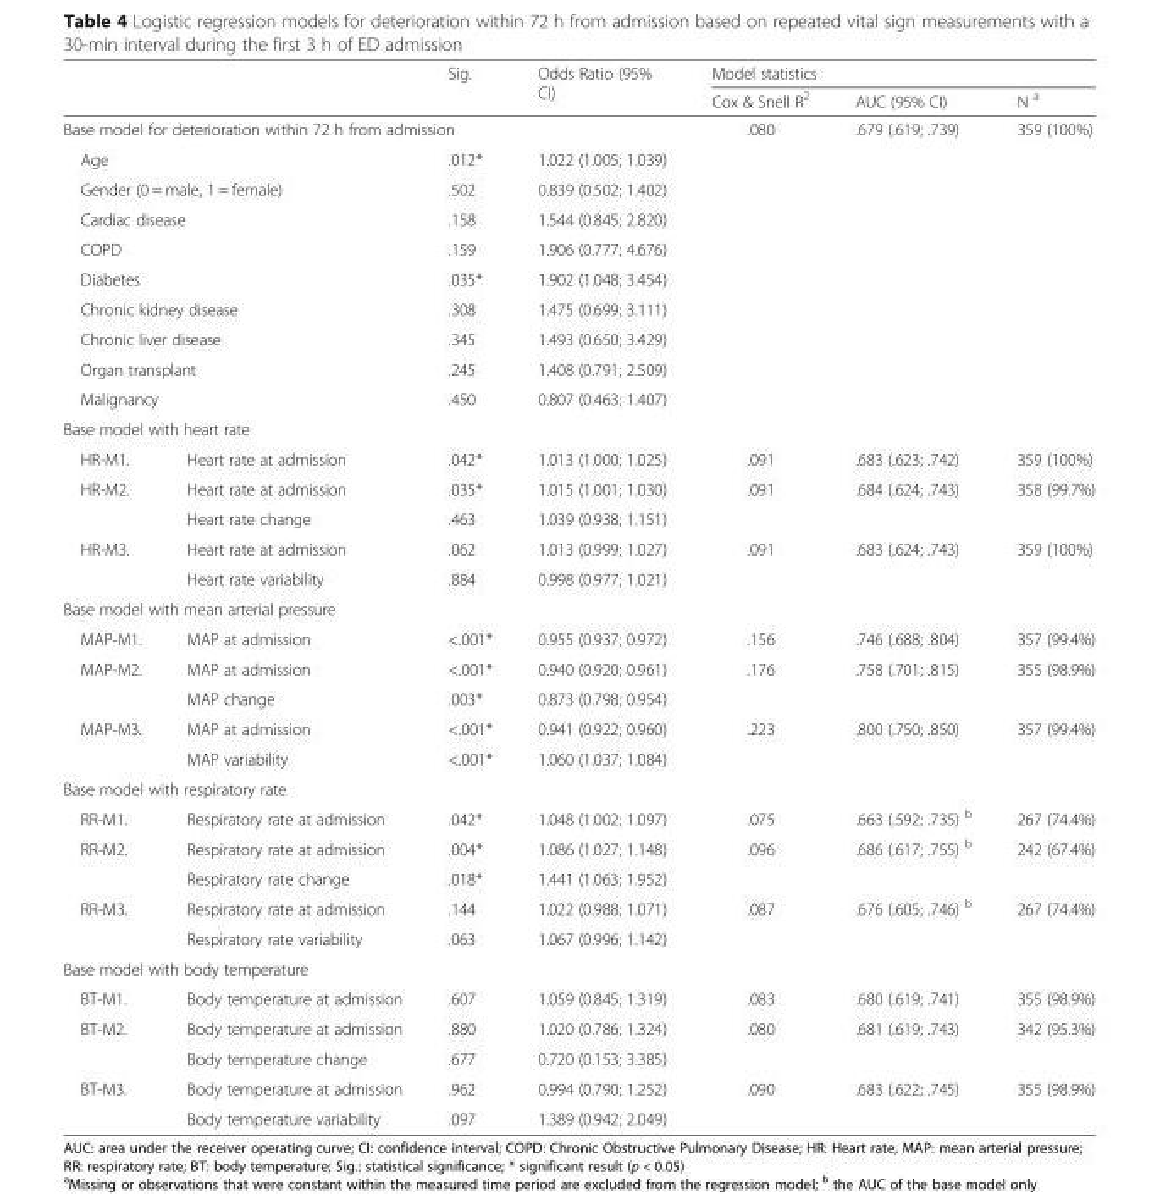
<table><thead><tr><td rowspan="2"></td><td rowspan="2"></td><td rowspan="2">Sig.</td><td rowspan="2">Odds Ratio (95% CI)</td><td colspan="3">Model statistics</td></tr><tr><td>Cox &amp; Snell R<sup>2</sup></td><td>AUC (95% CI)</td><td>N <sup>a</sup></td></tr></thead><tbody><tr><td colspan="4">Base model for deterioration within 72 h from admission</td><td>.080</td><td>.679 (.619; .739)</td><td>359 (100%)</td></tr><tr><td colspan="2">Age</td><td>.012*</td><td>1.022 (1.005; 1.039)</td><td></td><td></td><td></td></tr><tr><td colspan="2">Gender (0 = male, 1 = female)</td><td>.502</td><td>0.839 (0.502; 1.402)</td><td></td><td></td><td></td></tr><tr><td colspan="2">Cardiac disease</td><td>.158</td><td>1.544 (0.845; 2.820)</td><td></td><td></td><td></td></tr><tr><td colspan="2">COPD</td><td>.159</td><td>1.906 (0.777; 4.676)</td><td></td><td></td><td></td></tr><tr><td colspan="2">Diabetes</td><td>.035*</td><td>1.902 (1.048; 3.454)</td><td></td><td></td><td></td></tr><tr><td colspan="2">Chronic kidney disease</td><td>.308</td><td>1.475 (0.699; 3.111)</td><td></td><td></td><td></td></tr><tr><td colspan="2">Chronic liver disease</td><td>.345</td><td>1.493 (0.650; 3.429)</td><td></td><td></td><td></td></tr><tr><td colspan="2">Organ transplant</td><td>.245</td><td>1.408 (0.791; 2.509)</td><td></td><td></td><td></td></tr><tr><td colspan="2">Malignancy</td><td>.450</td><td>0.807 (0.463; 1.407)</td><td></td><td></td><td></td></tr><tr><td colspan="7">Base model with heart rate</td></tr><tr><td>HR-M1.</td><td>Heart rate at admission</td><td>.042*</td><td>1.013 (1.000; 1.025)</td><td>.091</td><td>.683 (.623; .742)</td><td>359 (100%)</td></tr><tr><td rowspan="2">HR-M2.</td><td>Heart rate at admission</td><td>.035*</td><td>1.015 (1.001; 1.030)</td><td>.091</td><td>.684 (.624; .743)</td><td>358 (99.7%)</td></tr><tr><td>Heart rate change</td><td>.463</td><td>1.039 (0.938; 1.151)</td><td></td><td></td><td></td></tr><tr><td rowspan="2">HR-M3.</td><td>Heart rate at admission</td><td>.062</td><td>1.013 (0.999; 1.027)</td><td>.091</td><td>.683 (.624; .743)</td><td>359 (100%)</td></tr><tr><td>Heart rate variability</td><td>.884</td><td>0.998 (0.977; 1.021)</td><td></td><td></td><td></td></tr><tr><td colspan="7">Base model with mean arterial pressure</td></tr><tr><td>MAP-M1.</td><td>MAP at admission</td><td>&lt;.001*</td><td>0.955 (0.937; 0.972)</td><td>.156</td><td>.746 (.688; .804)</td><td>357 (99.4%)</td></tr><tr><td rowspan="2">MAP-M2.</td><td>MAP at admission</td><td>&lt;.001*</td><td>0.940 (0.920; 0.961)</td><td>.176</td><td>.758 (.701; .815)</td><td>355 (98.9%)</td></tr><tr><td>MAP change</td><td>.003*</td><td>0.873 (0.798; 0.954)</td><td></td><td></td><td></td></tr><tr><td rowspan="2">MAP-M3.</td><td>MAP at admission</td><td>&lt;.001*</td><td>0.941 (0.922; 0.960)</td><td>.223</td><td>.800 (.750; .850)</td><td>357 (99.4%)</td></tr><tr><td>MAP variability</td><td>&lt;.001*</td><td>1.060 (1.037; 1.084)</td><td></td><td></td><td></td></tr><tr><td colspan="7">Base model with respiratory rate</td></tr><tr><td>RR-M1.</td><td>Respiratory rate at admission</td><td>.042*</td><td>1.048 (1.002; 1.097)</td><td>.075</td><td>.663 (.592; .735) <sup>b</sup></td><td>267 (74.4%)</td></tr><tr><td rowspan="2">RR-M2.</td><td>Respiratory rate at admission</td><td>.004*</td><td>1.086 (1.027; 1.148)</td><td>.096</td><td>.686 (.617; .755) <sup>b</sup></td><td>242 (67.4%)</td></tr><tr><td>Respiratory rate change</td><td>.018*</td><td>1.441 (1.063; 1.952)</td><td></td><td></td><td></td></tr><tr><td rowspan="2">RR-M3.</td><td>Respiratory rate at admission</td><td>.144</td><td>1.022 (0.988; 1.071)</td><td>.087</td><td>.676 (.605; .746) <sup>b</sup></td><td>267 (74.4%)</td></tr><tr><td>Respiratory rate variability</td><td>.063</td><td>1.067 (0.996; 1.142)</td><td></td><td></td><td></td></tr><tr><td colspan="7">Base model with body temperature</td></tr><tr><td>BT-M1.</td><td>Body temperature at admission</td><td>.607</td><td>1.059 (0.845; 1.319)</td><td>.083</td><td>.680 (.619; .741)</td><td>355 (98.9%)</td></tr><tr><td rowspan="2">BT-M2.</td><td>Body temperature at admission</td><td>.880</td><td>1.020 (0.786; 1.324)</td><td>.080</td><td>.681 (.619; .743)</td><td>342 (95.3%)</td></tr><tr><td>Body temperature change</td><td>.677</td><td>0.720 (0.153; 3.385)</td><td></td><td></td><td></td></tr><tr><td rowspan="2">BT-M3.</td><td>Body temperature at admission</td><td>.962</td><td>0.994 (0.790; 1.252)</td><td>.090</td><td>.683 (.622; .745)</td><td>355 (98.9%)</td></tr><tr><td>Body temperature variability</td><td>.097</td><td>1.389 (0.942; 2.049)</td><td></td><td></td><td></td></tr></tbody></table>